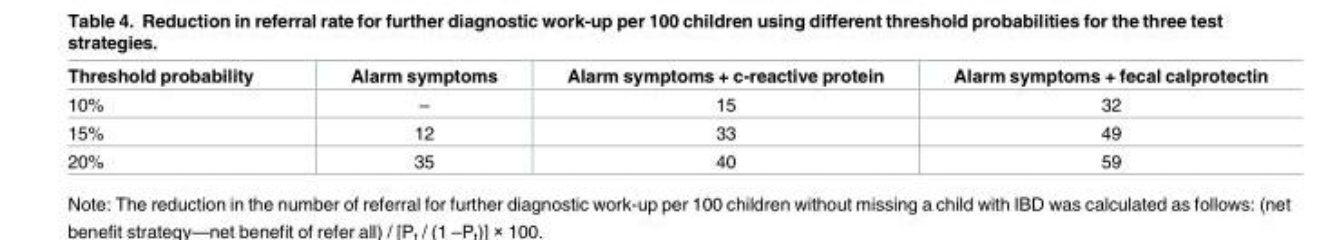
<table><thead><tr><td>Threshold probability</td><td>Alarm symptoms</td><td>Alarm symptoms + c-reactive protein</td><td>Alarm symptoms + fecal calprotectin</td></tr></thead><tbody><tr><td>10%</td><td>–</td><td>15</td><td>32</td></tr><tr><td>15%</td><td>12</td><td>33</td><td>49</td></tr><tr><td>20%</td><td>35</td><td>40</td><td>59</td></tr></tbody></table>